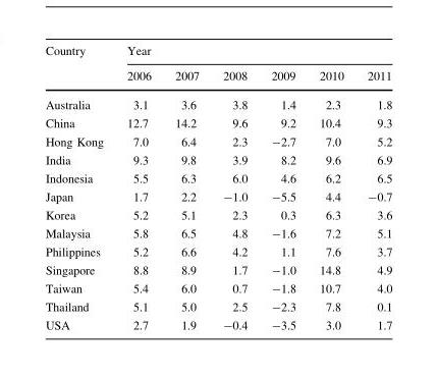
<table><thead><tr><td rowspan="2">Country</td><td colspan="6">Year</td></tr><tr><td>2006</td><td>2007</td><td>2008</td><td>2009</td><td>2010</td><td>2011</td></tr></thead><tbody><tr><td>Australia</td><td>3.1</td><td>3.6</td><td>3.8</td><td>1.4</td><td>2.3</td><td>1.8</td></tr><tr><td>China</td><td>12.7</td><td>14.2</td><td>9.6</td><td>9.2</td><td>10.4</td><td>9.3</td></tr><tr><td>Hong Kong</td><td>7.0</td><td>6.4</td><td>2.3</td><td>-2.7</td><td>7.0</td><td>5.2</td></tr><tr><td>India</td><td>9.3</td><td>9.8</td><td>3.9</td><td>8.2</td><td>9.6</td><td>6.9</td></tr><tr><td>Indonesia</td><td>5.5</td><td>6.3</td><td>6.0</td><td>4.6</td><td>6.2</td><td>6.5</td></tr><tr><td>Japan</td><td>1.7</td><td>2.2</td><td>-1.0</td><td>-5.5</td><td>4.4</td><td>-0.7</td></tr><tr><td>Korea</td><td>5.2</td><td>5.1</td><td>2.3</td><td>0.3</td><td>6.3</td><td>3.6</td></tr><tr><td>Malaysia</td><td>5.8</td><td>6.5</td><td>4.8</td><td>-1.6</td><td>7.2</td><td>5.1</td></tr><tr><td>Philippines</td><td>5.2</td><td>6.6</td><td>4.2</td><td>1.1</td><td>7.6</td><td>3.7</td></tr><tr><td>Singapore</td><td>8.8</td><td>8.9</td><td>1.7</td><td>-1.0</td><td>14.8</td><td>4.9</td></tr><tr><td>Taiwan</td><td>5.4</td><td>6.0</td><td>0.7</td><td>-1.8</td><td>10.7</td><td>4.0</td></tr><tr><td>Thailand</td><td>5.1</td><td>5.0</td><td>2.5</td><td>-2.3</td><td>7.8</td><td>0.1</td></tr><tr><td>USA</td><td>2.7</td><td>1.9</td><td>-0.4</td><td>-3.5</td><td>3.0</td><td>1.7</td></tr></tbody></table>